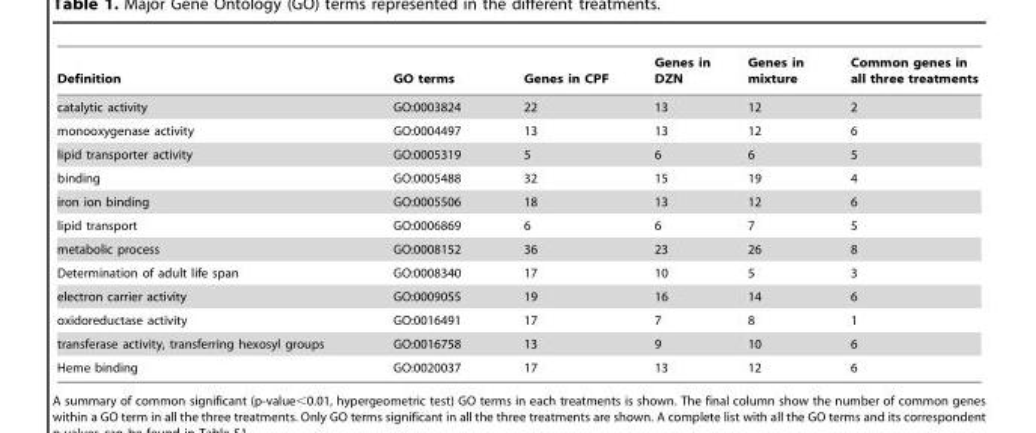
<table><thead><tr><td>Definition</td><td>GO terms</td><td>Genes in CPF</td><td>Genes in DZN</td><td>Genes in mixture</td><td>Common genes in all three treatments</td></tr></thead><tbody><tr><td>catalytic activity</td><td>GO:0003824</td><td>22</td><td>13</td><td>12</td><td>2</td></tr><tr><td>monooxygenase activity</td><td>GO:0004497</td><td>13</td><td>13</td><td>12</td><td>6</td></tr><tr><td>lipid transporter activity</td><td>GO:0005319</td><td>5</td><td>6</td><td>6</td><td>5</td></tr><tr><td>binding</td><td>GO:0005488</td><td>32</td><td>15</td><td>19</td><td>4</td></tr><tr><td>iron ion binding</td><td>GO:0005506</td><td>18</td><td>13</td><td>12</td><td>6</td></tr><tr><td>lipid transport</td><td>GO:0006869</td><td>6</td><td>6</td><td>7</td><td>5</td></tr><tr><td>metabolic process</td><td>GO:0008152</td><td>36</td><td>23</td><td>26</td><td>8</td></tr><tr><td>Determination of adult life span</td><td>GO:0008340</td><td>17</td><td>10</td><td>5</td><td>3</td></tr><tr><td>electron carrier activity</td><td>GO:0009055</td><td>19</td><td>16</td><td>14</td><td>6</td></tr><tr><td>oxidoreductase activity</td><td>GO:0016491</td><td>17</td><td>7</td><td>8</td><td>1</td></tr><tr><td>transferase activity, transferring hexosyl groups</td><td>GO:0016758</td><td>13</td><td>9</td><td>10</td><td>6</td></tr><tr><td>Heme binding</td><td>GO:0020037</td><td>17</td><td>13</td><td>12</td><td>6</td></tr></tbody></table>